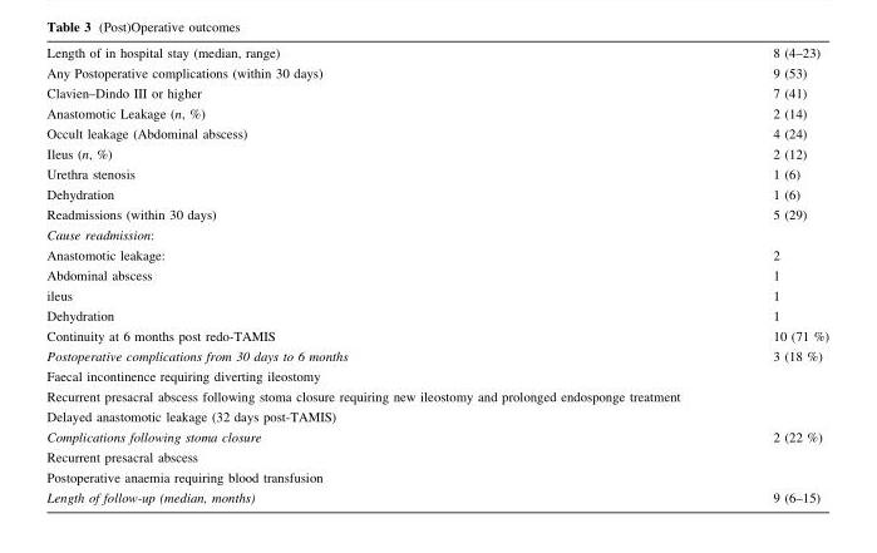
<table><tbody><tr><td>Length of in hospital stay (median, range)</td><td>8 (4–23)</td></tr><tr><td>Any Postoperative complications (within 30 days)</td><td>9 (53)</td></tr><tr><td>Clavien–Dindo III or higher</td><td>7 (41)</td></tr><tr><td>Anastomotic Leakage (n, %)</td><td>2 (14)</td></tr><tr><td>Occult leakage (Abdominal abscess)</td><td>4 (24)</td></tr><tr><td>Ileus (n, %)</td><td>2 (12)</td></tr><tr><td>Urethra stenosis</td><td>1 (6)</td></tr><tr><td>Dehydration</td><td>1 (6)</td></tr><tr><td>Readmissions (within 30 days)</td><td>5 (29)</td></tr><tr><td colspan="2">Cause readmission:</td></tr><tr><td>Anastomotic leakage:</td><td>2</td></tr><tr><td>Abdominal abscess</td><td>1</td></tr><tr><td>ileus</td><td>1</td></tr><tr><td>Dehydration</td><td>1</td></tr><tr><td>Continuity at 6 months post redo-TAMIS</td><td>10 (71 %)</td></tr><tr><td>Postoperative complications from 30 days to 6 months</td><td>3 (18 %)</td></tr><tr><td colspan="2">Faecal incontinence requiring diverting ileostomy</td></tr><tr><td colspan="2">Recurrent presacral abscess following stoma closure requiring new ileostomy and prolonged endosponge treatment</td></tr><tr><td colspan="2">Delayed anastomotic leakage (32 days post-TAMIS)</td></tr><tr><td>Complications following stoma closure</td><td>2 (22 %)</td></tr><tr><td colspan="2">Recurrent presacral abscess</td></tr><tr><td colspan="2">Postoperative anaemia requiring blood transfusion</td></tr><tr><td>Length of follow-up (median, months)</td><td>9 (6–15)</td></tr></tbody></table>